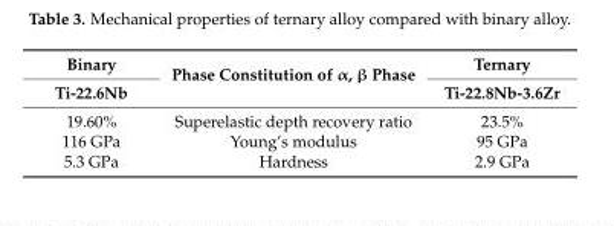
<table><thead><tr><td rowspan="2">Binary Ti-22.6Nb</td><td rowspan="2">Phase Constitution of α, β Phase</td><td rowspan="2">Ternary Ti-22.8Nb-3.6Zr</td></tr><tr></tr></thead><tbody><tr><td>19.60%</td><td>Superelastic depth recovery ratio</td><td>23.5%</td></tr><tr><td>116 GPa</td><td>Young’s modulus</td><td>95 GPa</td></tr><tr><td>5.3 GPa</td><td>Hardness</td><td>2.9 GPa</td></tr></tbody></table>